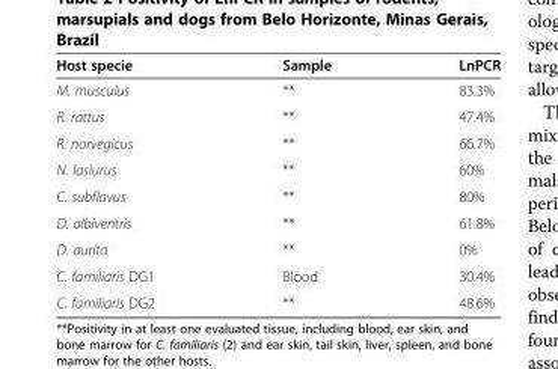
<table><thead><tr><td>Host specie</td><td>Sample</td><td>LnPCR</td></tr></thead><tbody><tr><td>M. musculus</td><td>**</td><td>83.3%</td></tr><tr><td>R. rattus</td><td>**</td><td>47.4%</td></tr><tr><td>R. norvegicus</td><td>**</td><td>66.7%</td></tr><tr><td>N. lasiurus</td><td>**</td><td>60%</td></tr><tr><td>C. subflavus</td><td>**</td><td>80%</td></tr><tr><td>D. albiventris</td><td>**</td><td>61.8%</td></tr><tr><td>D. aurita</td><td>**</td><td>0%</td></tr><tr><td>C. familiaris DG1</td><td>Blood</td><td>30.4%</td></tr><tr><td>C. familiaris DG2</td><td>**</td><td>48.6%</td></tr></tbody></table>